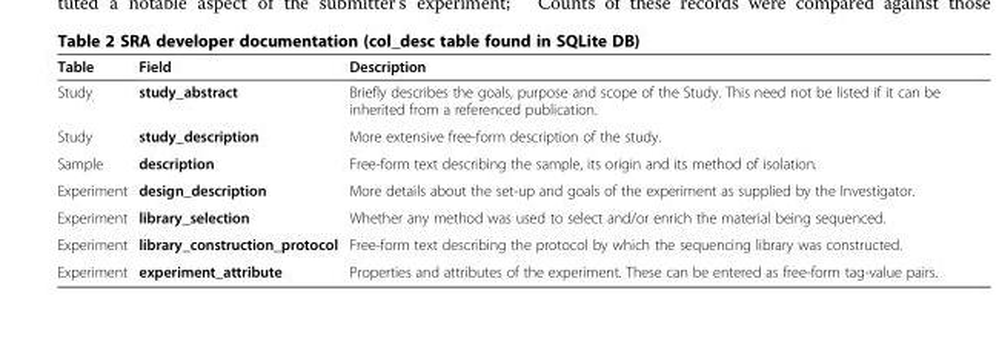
<table><thead><tr><td>Table</td><td>Field</td><td>Description</td></tr></thead><tbody><tr><td>Study</td><td>study_abstract</td><td>Briefly describes the goals, purpose and scope of the Study. This need not be listed if it can be inherited from a referenced publication.</td></tr><tr><td>Study</td><td>study_description</td><td>More extensive free-form description of the study.</td></tr><tr><td>Sample</td><td>description</td><td>Free-form text describing the sample, its origin and its method of isolation.</td></tr><tr><td>Experiment</td><td>design_description</td><td>More details about the set-up and goals of the experiment as supplied by the Investigator.</td></tr><tr><td>Experiment</td><td>library_selection</td><td>Whether any method was used to select and/or enrich the material being sequenced.</td></tr><tr><td>Experiment</td><td>library_construction_protocol</td><td>Free-form text describing the protocol by which the sequencing library was constructed.</td></tr><tr><td>Experiment</td><td>experiment_attribute</td><td>Properties and attributes of the experiment. These can be entered as free-form tag-value pairs.</td></tr></tbody></table>